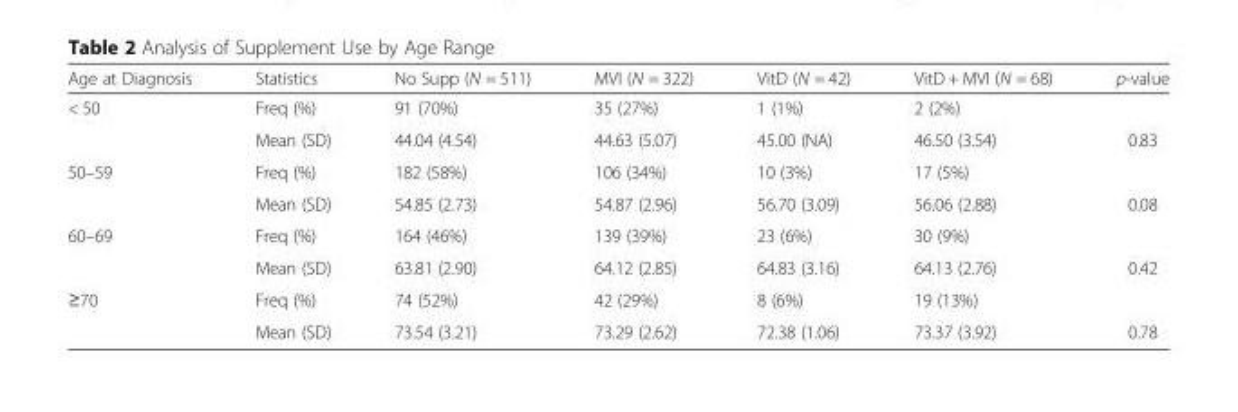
<table><thead><tr><td>Age at Diagnosis</td><td>Statistics</td><td>No Supp (N = 511)</td><td>MVI (N = 322)</td><td>VitD (N = 42)</td><td>VitD + MVI (N = 68)</td><td>p-value</td></tr></thead><tbody><tr><td rowspan="2">&lt; 50</td><td>Freq (%)</td><td>91 (70%)</td><td>35 (27%)</td><td>1 (1%)</td><td>2 (2%)</td><td></td></tr><tr><td>Mean (SD)</td><td>44.04 (4.54)</td><td>44.63 (5.07)</td><td>45.00 (NA)</td><td>46.50 (3.54)</td><td>0.83</td></tr><tr><td rowspan="2">50–59</td><td>Freq (%)</td><td>182 (58%)</td><td>106 (34%)</td><td>10 (3%)</td><td>17 (5%)</td><td></td></tr><tr><td>Mean (SD)</td><td>54.85 (2.73)</td><td>54.87 (2.96)</td><td>56.70 (3.09)</td><td>56.06 (2.88)</td><td>0.08</td></tr><tr><td rowspan="2">60–69</td><td>Freq (%)</td><td>164 (46%)</td><td>139 (39%)</td><td>23 (6%)</td><td>30 (9%)</td><td></td></tr><tr><td>Mean (SD)</td><td>63.81 (2.90)</td><td>64.12 (2.85)</td><td>64.83 (3.16)</td><td>64.13 (2.76)</td><td>0.42</td></tr><tr><td rowspan="2">≥70</td><td>Freq (%)</td><td>74 (52%)</td><td>42 (29%)</td><td>8 (6%)</td><td>19 (13%)</td><td></td></tr><tr><td>Mean (SD)</td><td>73.54 (3.21)</td><td>73.29 (2.62)</td><td>72.38 (1.06)</td><td>73.37 (3.92)</td><td>0.78</td></tr></tbody></table>